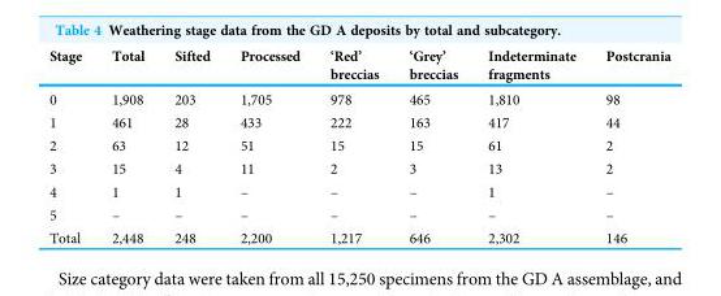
<table><thead><tr><td>Stage</td><td>Total</td><td>Sifted</td><td>Processed</td><td>‘Red’ breccias</td><td>‘Grey’ breccias</td><td>Indeterminate fragments</td><td>Postcrania</td></tr></thead><tbody><tr><td>0</td><td>1,908</td><td>203</td><td>1,705</td><td>978</td><td>465</td><td>1,810</td><td>98</td></tr><tr><td>1</td><td>461</td><td>28</td><td>433</td><td>222</td><td>163</td><td>417</td><td>44</td></tr><tr><td>2</td><td>63</td><td>12</td><td>51</td><td>15</td><td>15</td><td>61</td><td>2</td></tr><tr><td>3</td><td>15</td><td>4</td><td>11</td><td>2</td><td>3</td><td>13</td><td>2</td></tr><tr><td>4</td><td>1</td><td>1</td><td>–</td><td>–</td><td>–</td><td>1</td><td>–</td></tr><tr><td>5</td><td>–</td><td>–</td><td>–</td><td>–</td><td>–</td><td>–</td><td>–</td></tr><tr><td>Total</td><td>2,448</td><td>248</td><td>2,200</td><td>1,217</td><td>646</td><td>2,302</td><td>146</td></tr></tbody></table>